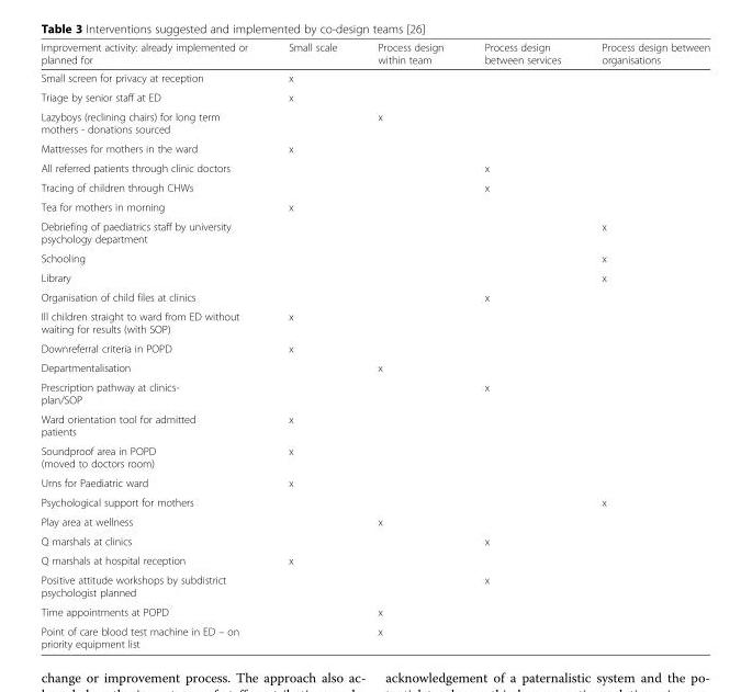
<table><thead><tr><td>Improvement activity: already implemented or planned for</td><td>Small scale</td><td>Process design within team</td><td>Process design between services</td><td>Process design between organisations</td></tr></thead><tbody><tr><td>Small screen for privacy at reception</td><td>x</td><td></td><td></td><td></td></tr><tr><td>Triage by senior staff at ED</td><td>x</td><td></td><td></td><td></td></tr><tr><td>Lazyboys (reclining chairs) for long term mothers - donations sourced</td><td></td><td>x</td><td></td><td></td></tr><tr><td>Mattresses for mothers in the ward</td><td>x</td><td></td><td></td><td></td></tr><tr><td>All referred patients through clinic doctors</td><td></td><td></td><td>x</td><td></td></tr><tr><td>Tracing of children through CHWs</td><td></td><td></td><td>x</td><td></td></tr><tr><td>Tea for mothers in morning</td><td>x</td><td></td><td></td><td></td></tr><tr><td>Debriefing of paediatrics staff by university psychology department</td><td></td><td></td><td></td><td>x</td></tr><tr><td>Schooling</td><td></td><td></td><td></td><td>x</td></tr><tr><td>Library</td><td></td><td></td><td></td><td>x</td></tr><tr><td>Organisation of child files at clinics</td><td></td><td></td><td>x</td><td></td></tr><tr><td>Ill children straight to ward from ED without waiting for results (with SOP)</td><td>x</td><td></td><td></td><td></td></tr><tr><td>Downreferral criteria in POPD</td><td>x</td><td></td><td></td><td></td></tr><tr><td>Departmentalisation</td><td></td><td>x</td><td></td><td></td></tr><tr><td>Prescription pathway at clinics- plan/SOP</td><td></td><td></td><td>x</td><td></td></tr><tr><td>Ward orientation tool for admitted patients</td><td>x</td><td></td><td></td><td></td></tr><tr><td>Soundproof area in POPD (moved to doctors room)</td><td>x</td><td></td><td></td><td></td></tr><tr><td>Urns for Paediatric ward</td><td>x</td><td></td><td></td><td></td></tr><tr><td>Psychological support for mothers</td><td></td><td></td><td></td><td>x</td></tr><tr><td>Play area at wellness</td><td></td><td>x</td><td></td><td></td></tr><tr><td>Q marshals at clinics</td><td></td><td></td><td>x</td><td></td></tr><tr><td>Q marshals at hospital reception</td><td>x</td><td></td><td></td><td></td></tr><tr><td>Positive attitude workshops by subdistrict psychologist planned</td><td></td><td></td><td>x</td><td></td></tr><tr><td>Time appointments at POPD</td><td></td><td>x</td><td></td><td></td></tr><tr><td>Point of care blood test machine in ED – on priority equipment list</td><td></td><td>x</td><td></td><td></td></tr></tbody></table>